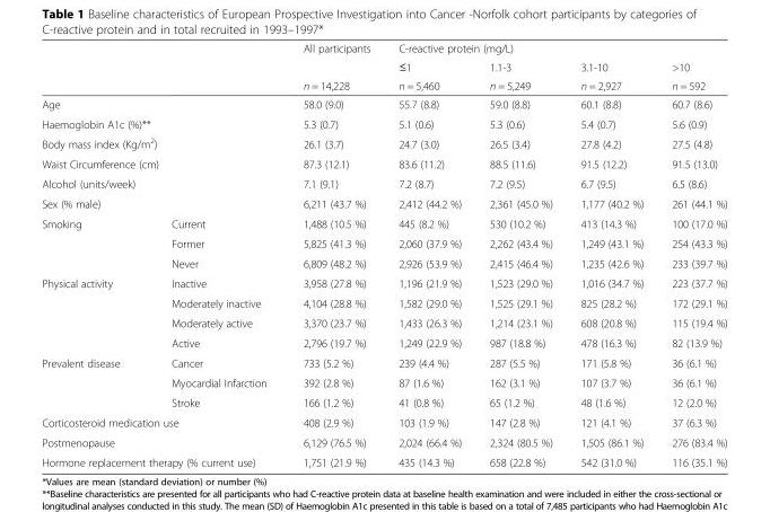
<table><thead><tr><td rowspan="3"></td><td rowspan="3"></td><td rowspan="3">All participants n = 14,228</td><td colspan="4">C-reactive protein (mg/L)</td></tr><tr><td rowspan="2">≤1 n = 5,460</td><td rowspan="2">1.1-3 n = 5,249</td><td rowspan="2">3.1-10 n = 2,927</td><td rowspan="2">&gt;10 n = 592</td></tr><tr></tr></thead><tbody><tr><td>Age</td><td></td><td>58.0 (9.0)</td><td>55.7 (8.8)</td><td>59.0 (8.8)</td><td>60.1 (8.8)</td><td>60.7 (8.6)</td></tr><tr><td colspan="2">Haemoglobin A1c (%)**</td><td>5.3 (0.7)</td><td>5.1 (0.6)</td><td>5.3 (0.6)</td><td>5.4 (0.7)</td><td>5.6 (0.9)</td></tr><tr><td colspan="2">Body mass index (Kg/m<sup>2</sup>)</td><td>26.1 (3.7)</td><td>24.7 (3.0)</td><td>26.5 (3.4)</td><td>27.8 (4.2)</td><td>27.5 (4.8)</td></tr><tr><td colspan="2">Waist Circumference (cm)</td><td>87.3 (12.1)</td><td>83.6 (11.2)</td><td>88.5 (11.6)</td><td>91.5 (12.2)</td><td>91.5 (13.0)</td></tr><tr><td>Alcohol (units/week)</td><td></td><td>7.1 (9.1)</td><td>7.2 (8.7)</td><td>7.2 (9.5)</td><td>6.7 (9.5)</td><td>6.5 (8.6)</td></tr><tr><td>Sex (% male)</td><td></td><td>6,211 (43.7 %)</td><td>2,412 (44.2 %)</td><td>2,361 (45.0 %)</td><td>1,177 (40.2 %)</td><td>261 (44.1 %)</td></tr><tr><td rowspan="3">Smoking</td><td>Current</td><td>1,488 (10.5 %)</td><td>445 (8.2 %)</td><td>530 (10.2 %)</td><td>413 (14.3 %)</td><td>100 (17.0 %)</td></tr><tr><td>Former</td><td>5,825 (41.3 %)</td><td>2,060 (37.9 %)</td><td>2,262 (43.4 %)</td><td>1,249 (43.1 %)</td><td>254 (43.3 %)</td></tr><tr><td>Never</td><td>6,809 (48.2 %)</td><td>2,926 (53.9 %)</td><td>2,415 (46.4 %)</td><td>1,235 (42.6 %)</td><td>233 (39.7 %)</td></tr><tr><td rowspan="4">Physical activity</td><td>Inactive</td><td>3,958 (27.8 %)</td><td>1,196 (21.9 %)</td><td>1,523 (29.0 %)</td><td>1,016 (34.7 %)</td><td>223 (37.7 %)</td></tr><tr><td>Moderately inactive</td><td>4,104 (28.8 %)</td><td>1,582 (29.0 %)</td><td>1,525 (29.1 %)</td><td>825 (28.2 %)</td><td>172 (29.1 %)</td></tr><tr><td>Moderately active</td><td>3,370 (23.7 %)</td><td>1,433 (26.3 %)</td><td>1,214 (23.1 %)</td><td>608 (20.8 %)</td><td>115 (19.4 %)</td></tr><tr><td>Active</td><td>2,796 (19.7 %)</td><td>1,249 (22.9 %)</td><td>987 (18.8 %)</td><td>478 (16.3 %)</td><td>82 (13.9 %)</td></tr><tr><td rowspan="3">Prevalent disease</td><td>Cancer</td><td>733 (5.2 %)</td><td>239 (4.4 %)</td><td>287 (5.5 %)</td><td>171 (5.8 %)</td><td>36 (6.1 %)</td></tr><tr><td>Myocardial Infarction</td><td>392 (2.8 %)</td><td>87 (1.6 %)</td><td>162 (3.1 %)</td><td>107 (3.7 %)</td><td>36 (6.1 %)</td></tr><tr><td>Stroke</td><td>166 (1.2 %)</td><td>41 (0.8 %)</td><td>65 (1.2 %)</td><td>48 (1.6 %)</td><td>12 (2.0 %)</td></tr><tr><td colspan="2">Corticosteroid medication use</td><td>408 (2.9 %)</td><td>103 (1.9 %)</td><td>147 (2.8 %)</td><td>121 (4.1 %)</td><td>37 (6.3 %)</td></tr><tr><td>Postmenopause</td><td></td><td>6,129 (76.5 %)</td><td>2,024 (66.4 %)</td><td>2,324 (80.5 %)</td><td>1,505 (86.1 %)</td><td>276 (83.4 %)</td></tr><tr><td colspan="2">Hormone replacement therapy (% current use)</td><td>1,751 (21.9 %)</td><td>435 (14.3 %)</td><td>658 (22.8 %)</td><td>542 (31.0 %)</td><td>116 (35.1 %)</td></tr></tbody></table>